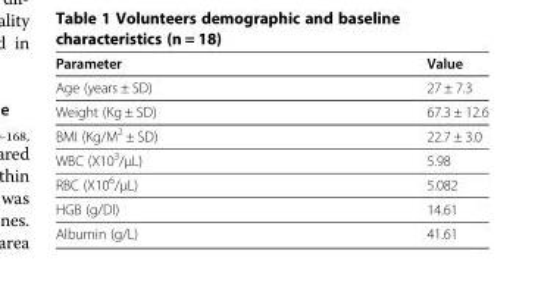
<table><thead><tr><td>Parameter</td><td>Value</td></tr></thead><tbody><tr><td>Age (years ± SD)</td><td>27 ± 7.3</td></tr><tr><td>Weight (Kg ± SD)</td><td>67.3 ± 12.6</td></tr><tr><td>BMI (Kg/M<sup>2</sup> ± SD)</td><td>22.7 ± 3.0</td></tr><tr><td>WBC (X10<sup>3</sup>/μL)</td><td>5.98</td></tr><tr><td>RBC (X10<sup>6</sup>/μL)</td><td>5.082</td></tr><tr><td>HGB (g/Dl)</td><td>14.61</td></tr><tr><td>Albumin (g/L)</td><td>41.61</td></tr></tbody></table>